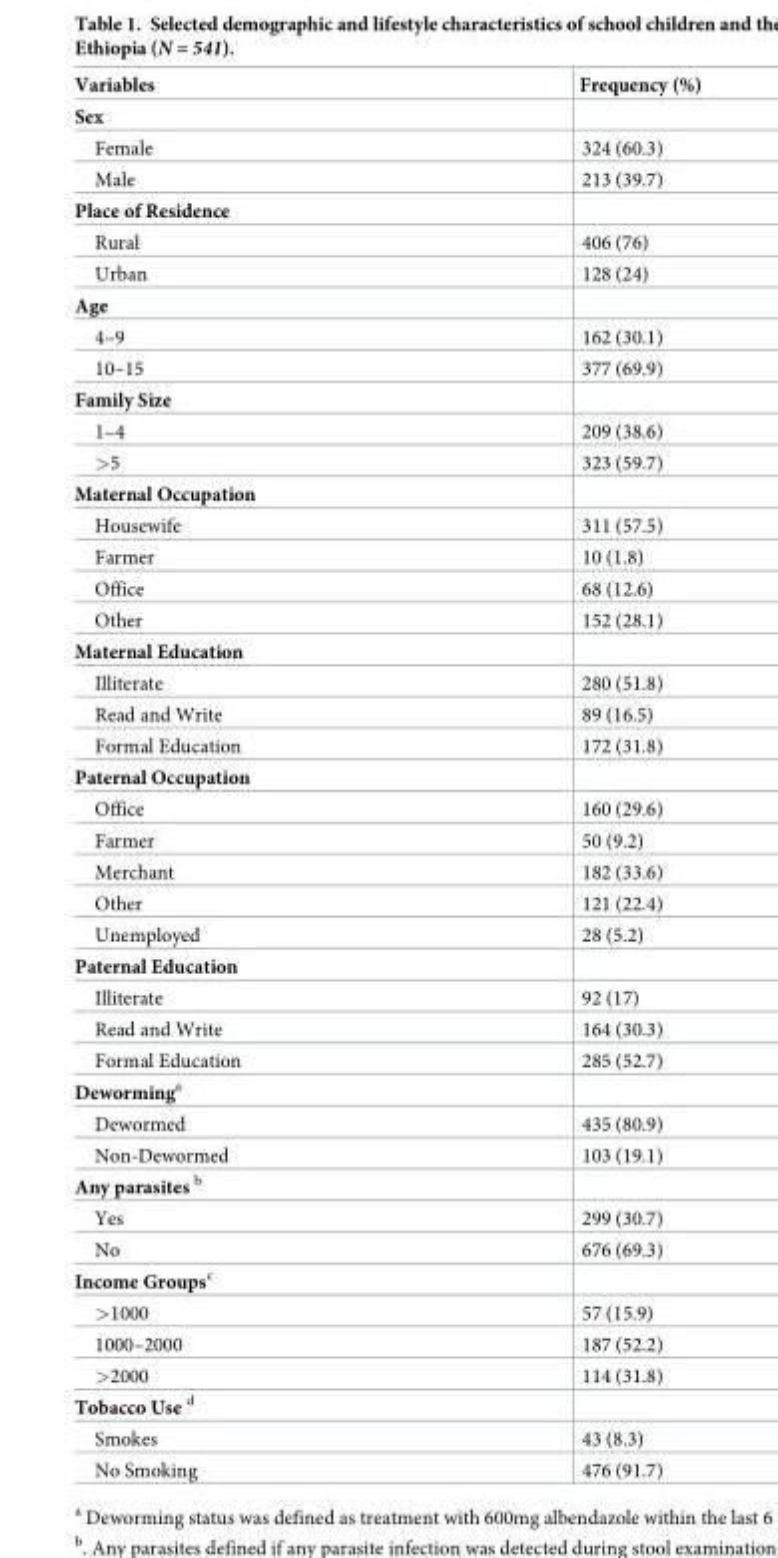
<table><thead><tr><td>Variables</td><td>Frequency (%)</td></tr></thead><tbody><tr><td colspan="2">Sex</td></tr><tr><td>Female</td><td>324 (60.3)</td></tr><tr><td>Male</td><td>213 (39.7)</td></tr><tr><td colspan="2">Place of Residence</td></tr><tr><td>Rural</td><td>406 (76)</td></tr><tr><td>Urban</td><td>128 (24)</td></tr><tr><td colspan="2">Age</td></tr><tr><td>4–9</td><td>162 (30.1)</td></tr><tr><td>10–15</td><td>377 (69.9)</td></tr><tr><td colspan="2">Family Size</td></tr><tr><td>1–4</td><td>209 (38.6)</td></tr><tr><td>&gt;5</td><td>323 (59.7)</td></tr><tr><td colspan="2">Maternal Occupation</td></tr><tr><td>Housewife</td><td>311 (57.5)</td></tr><tr><td>Farmer</td><td>10 (1.8)</td></tr><tr><td>Office</td><td>68 (12.6)</td></tr><tr><td>Other</td><td>152 (28.1)</td></tr><tr><td colspan="2">Maternal Education</td></tr><tr><td>Illiterate</td><td>280 (51.8)</td></tr><tr><td>Read and Write</td><td>89 (16.5)</td></tr><tr><td>Formal Education</td><td>172 (31.8)</td></tr><tr><td colspan="2">Paternal Occupation</td></tr><tr><td>Office</td><td>160 (29.6)</td></tr><tr><td>Farmer</td><td>50 (9.2)</td></tr><tr><td>Merchant</td><td>182 (33.6)</td></tr><tr><td>Other</td><td>121 (22.4)</td></tr><tr><td>Unemployed</td><td>28 (5.2)</td></tr><tr><td colspan="2">Paternal Education</td></tr><tr><td>Illiterate</td><td>92 (17)</td></tr><tr><td>Read and Write</td><td>164 (30.3)</td></tr><tr><td>Formal Education</td><td>285 (52.7)</td></tr><tr><td colspan="2">Deworming<sup>a</sup></td></tr><tr><td>Dewormed</td><td>435 (80.9)</td></tr><tr><td>Non-Dewormed</td><td>103 (19.1)</td></tr><tr><td colspan="2">Any parasites <sup>b</sup></td></tr><tr><td>Yes</td><td>299 (30.7)</td></tr><tr><td>No</td><td>676 (69.3)</td></tr><tr><td colspan="2">Income Groups<sup>c</sup></td></tr><tr><td>&gt;1000</td><td>57 (15.9)</td></tr><tr><td>1000–2000</td><td>187 (52.2)</td></tr><tr><td>&gt;2000</td><td>114 (31.8)</td></tr><tr><td colspan="2">Tobacco Use <sup>d</sup></td></tr><tr><td>Smokes</td><td>43 (8.3)</td></tr><tr><td>No Smoking</td><td>476 (91.7)</td></tr></tbody></table>